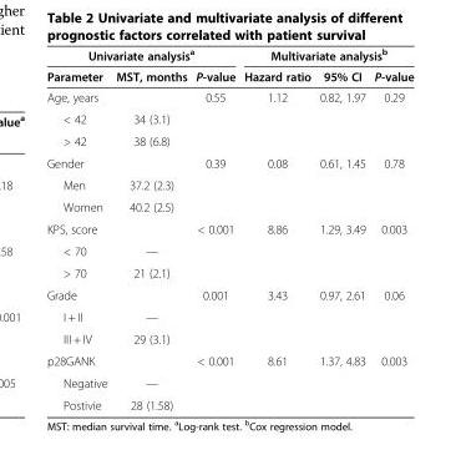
<table><thead><tr><td colspan="3">Univariate analysis<sup>a</sup></td><td colspan="3">Multivariate analysis<sup>b</sup></td></tr><tr><td>Parameter</td><td>MST, months</td><td>P-value</td><td>Hazard ratio</td><td>95% CI</td><td>P-value</td></tr></thead><tbody><tr><td>Age, years</td><td></td><td>0.55</td><td>1.12</td><td>0.82, 1.97</td><td>0.29</td></tr><tr><td>&lt; 42</td><td>34 (3.1)</td><td></td><td></td><td></td><td></td></tr><tr><td>&gt; 42</td><td>38 (6.8)</td><td></td><td></td><td></td><td></td></tr><tr><td>Gender</td><td></td><td>0.39</td><td>0.08</td><td>0.61, 1.45</td><td>0.78</td></tr><tr><td>Men</td><td>37.2 (2.3)</td><td></td><td></td><td></td><td></td></tr><tr><td>Women</td><td>40.2 (2.5)</td><td></td><td></td><td></td><td></td></tr><tr><td>KPS, score</td><td></td><td>&lt; 0.001</td><td>8.86</td><td>1.29, 3.49</td><td>0.003</td></tr><tr><td>&lt; 70</td><td>—</td><td></td><td></td><td></td><td></td></tr><tr><td>&gt; 70</td><td>21 (2.1)</td><td></td><td></td><td></td><td></td></tr><tr><td>Grade</td><td></td><td>0.001</td><td>3.43</td><td>0.97, 2.61</td><td>0.06</td></tr><tr><td>I + II</td><td>—</td><td></td><td></td><td></td><td></td></tr><tr><td>III + IV</td><td>29 (3.1)</td><td></td><td></td><td></td><td></td></tr><tr><td>p28GANK</td><td></td><td>&lt; 0.001</td><td>8.61</td><td>1.37, 4.83</td><td>0.003</td></tr><tr><td>Negative</td><td>—</td><td></td><td></td><td></td><td></td></tr><tr><td>Postivie</td><td>28 (1.58)</td><td></td><td></td><td></td><td></td></tr></tbody></table>